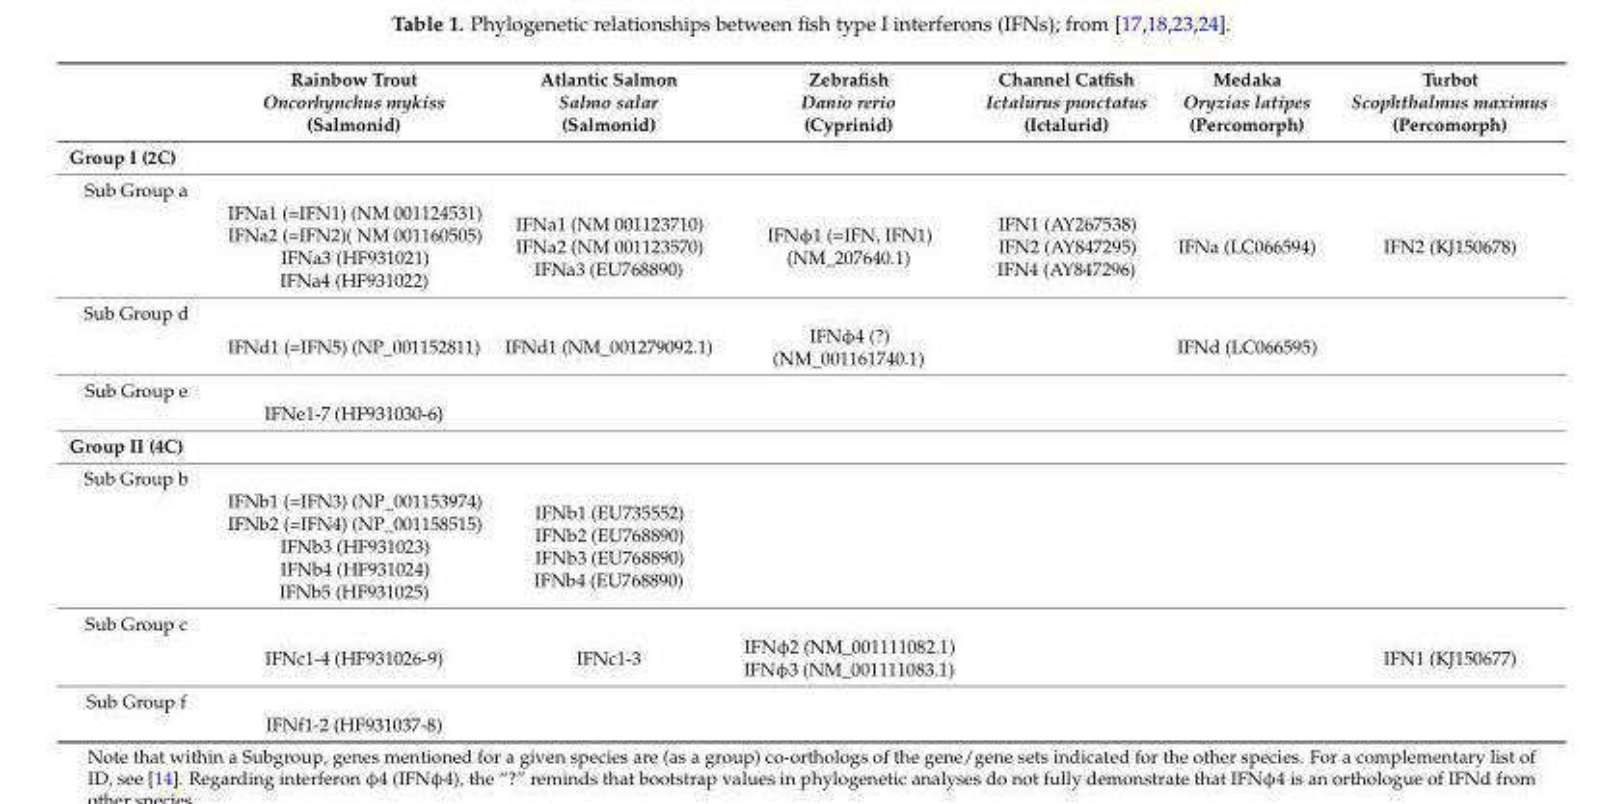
<table><thead><tr><td></td><td>Rainbow Trout Oncorhynchus mykiss (Salmonid)</td><td>Atlantic Salmon Salmo salar (Salmonid)</td><td>Zebrafish Danio rerio (Cyprinid)</td><td>Channel Catfish Ictalurus punctatus (Ictalurid)</td><td>Medaka Oryzias latipes (Percomorph)</td><td>Turbot Scophthalmus maximus (Percomorph)</td></tr></thead><tbody><tr><td colspan="7">Group I (2C)</td></tr><tr><td colspan="7">Sub Group a</td></tr><tr><td></td><td>IFNa1 (=IFN1) (NM 001124531) IFNa2 (=IFN2)( NM 001160505) IFNa3 (HF931021) IFNa4 (HF931022)</td><td>IFNa1 (NM 001123710) IFNa2 (NM 001123570) IFNa3 (EU768890)</td><td>IFNφ1 (=IFN, IFN1) (NM_207640.1)</td><td>IFN1 (AY267538) IFN2 (AY847295) IFN4 (AY847296)</td><td>IFNa (LC066594)</td><td>IFN2 (KJ150678)</td></tr><tr><td colspan="7">Sub Group d</td></tr><tr><td></td><td>IFNd1 (=IFN5) (NP_001152811)</td><td>IFNd1 (NM_001279092.1)</td><td>IFNφ4 (?) (NM_001161740.1)</td><td></td><td>IFNd (LC066595)</td><td></td></tr><tr><td colspan="7">Sub Group e</td></tr><tr><td></td><td>IFNe1-7 (HF931030-6)</td><td></td><td></td><td></td><td></td><td></td></tr><tr><td colspan="7">Group II (4C)</td></tr><tr><td colspan="7">Sub Group b</td></tr><tr><td></td><td>IFNb1 (=IFN3) (NP_001153974) IFNb2 (=IFN4) (NP_001158515) IFNb3 (HF931023) IFNb4 (HF931024) IFNb5 (HF931025)</td><td>IFNb1 (EU735552) IFNb2 (EU768890) IFNb3 (EU768890) IFNb4 (EU768890)</td><td></td><td></td><td></td><td></td></tr><tr><td colspan="7">Sub Group c</td></tr><tr><td></td><td>IFNc1-4 (HF931026-9)</td><td>IFNc1-3</td><td>IFNφ2 (NM_001111082.1) IFNφ3 (NM_001111083.1)</td><td></td><td></td><td>IFN1 (KJ150677)</td></tr><tr><td colspan="7">Sub Group f</td></tr><tr><td></td><td>IFNf1-2 (HF931037-8)</td><td></td><td></td><td></td><td></td><td></td></tr></tbody></table>